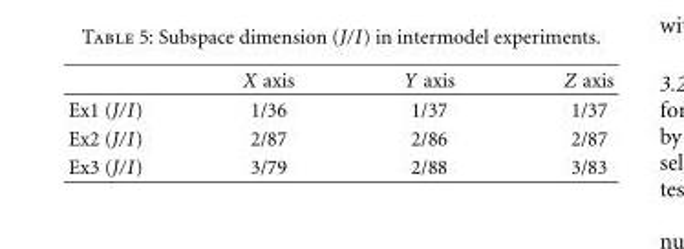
<table><thead><tr><td></td><td>X axis</td><td>Y axis</td><td>Z axis</td></tr></thead><tbody><tr><td>Ex1 (J/I)</td><td>1/36</td><td>1/37</td><td>1/37</td></tr><tr><td>Ex2 (J/I)</td><td>2/87</td><td>2/86</td><td>2/87</td></tr><tr><td>Ex3 (J/I)</td><td>3/79</td><td>2/88</td><td>3/83</td></tr></tbody></table>